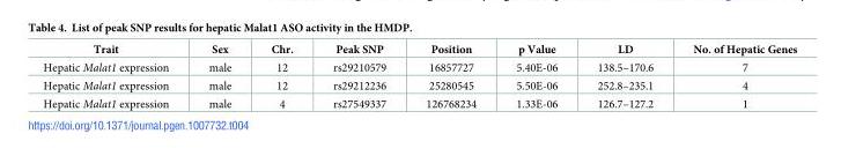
<table><thead><tr><td>Trait</td><td>Sex</td><td>Chr.</td><td>Peak SNP</td><td>Position</td><td>p Value</td><td>LD</td><td>No. of Hepatic Genes</td></tr></thead><tbody><tr><td>Hepatic Malat1 expression</td><td>male</td><td>12</td><td>rs29210579</td><td>16857727</td><td>5.40E-06</td><td>138.5–170.6</td><td>7</td></tr><tr><td>Hepatic Malat1 expression</td><td>male</td><td>12</td><td>rs29212236</td><td>25280545</td><td>5.50E-06</td><td>252.8–235.1</td><td>4</td></tr><tr><td>Hepatic Malat1 expression</td><td>male</td><td>4</td><td>rs27549337</td><td>126768234</td><td>1.33E-06</td><td>126.7–127.2</td><td>1</td></tr></tbody></table>